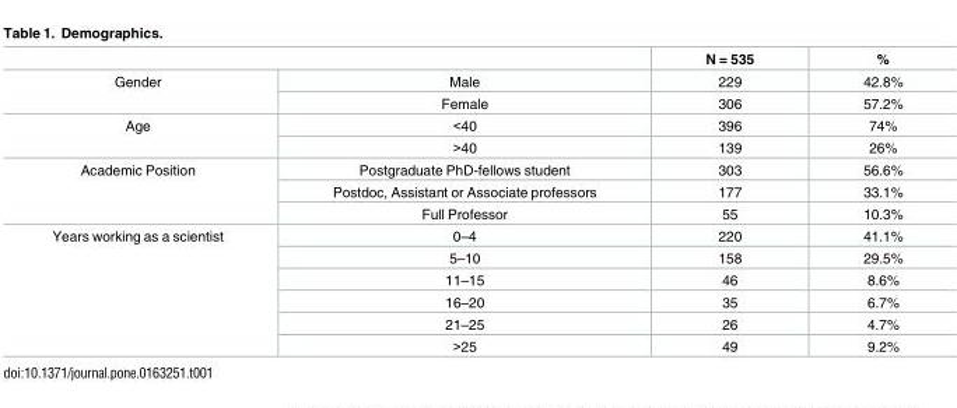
<table><thead><tr><td></td><td></td><td>N = 535</td><td>%</td></tr></thead><tbody><tr><td rowspan="2">Gender</td><td>Male</td><td>229</td><td>42.8%</td></tr><tr><td>Female</td><td>306</td><td>57.2%</td></tr><tr><td rowspan="2">Age</td><td>&lt;40</td><td>396</td><td>74%</td></tr><tr><td>&gt;40</td><td>139</td><td>26%</td></tr><tr><td rowspan="3">Academic Position</td><td>Postgraduate PhD-fellows student</td><td>303</td><td>56.6%</td></tr><tr><td>Postdoc, Assistant or Associate professors</td><td>177</td><td>33.1%</td></tr><tr><td>Full Professor</td><td>55</td><td>10.3%</td></tr><tr><td rowspan="6">Years working as a scientist</td><td>0–4</td><td>220</td><td>41.1%</td></tr><tr><td>5–10</td><td>158</td><td>29.5%</td></tr><tr><td>11–15</td><td>46</td><td>8.6%</td></tr><tr><td>16–20</td><td>35</td><td>6.7%</td></tr><tr><td>21–25</td><td>26</td><td>4.7%</td></tr><tr><td>&gt;25</td><td>49</td><td>9.2%</td></tr></tbody></table>